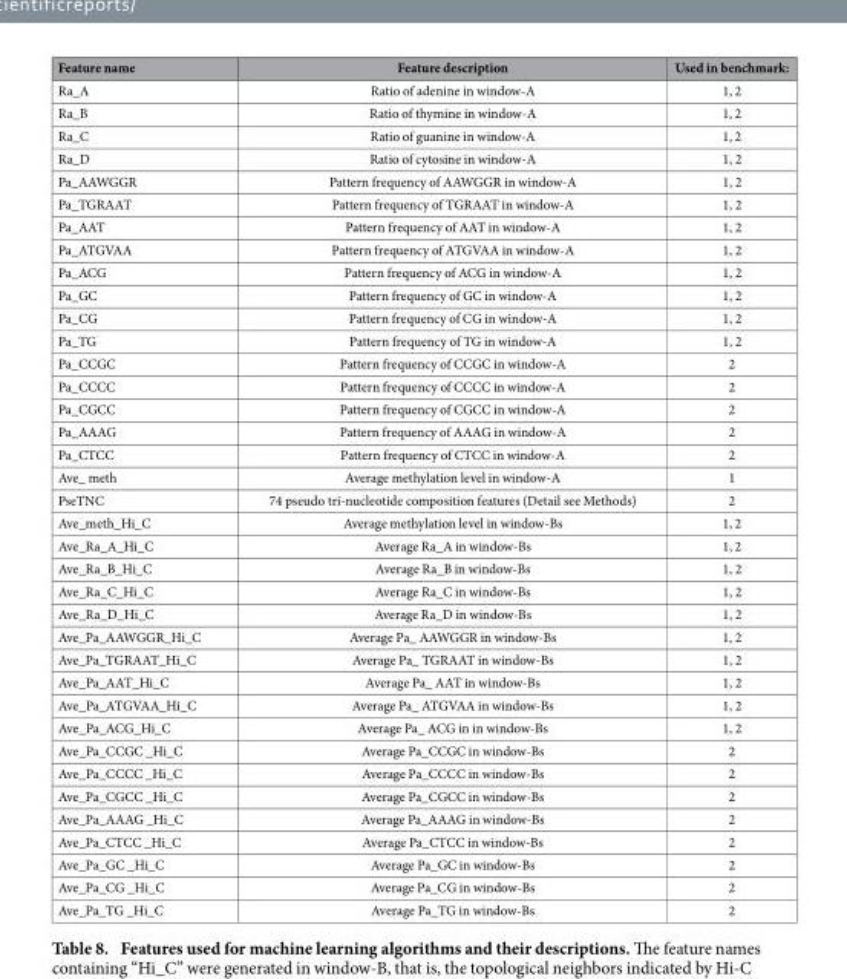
<table><thead><tr><td>Feature name</td><td>Feature description</td><td>Used in benchmark:</td></tr></thead><tbody><tr><td>Ra_A</td><td>Ratio of adenine in window-A</td><td>1, 2</td></tr><tr><td>Ra_B</td><td>Ratio of thymine in window-A</td><td>1, 2</td></tr><tr><td>Ra_C</td><td>Ratio of guanine in window-A</td><td>1, 2</td></tr><tr><td>Ra_D</td><td>Ratio of cytosine in window-A</td><td>1, 2</td></tr><tr><td>Pa_AAWGGR</td><td>Pattern frequency of AAWGGR in window-A</td><td>1, 2</td></tr><tr><td>Pa_TGRAAT</td><td>Pattern frequency of TGRAAT in window-A</td><td>1, 2</td></tr><tr><td>Pa_AAT</td><td>Pattern frequency of AAT in window-A</td><td>1, 2</td></tr><tr><td>Pa_ATGVAA</td><td>Pattern frequency of ATGVAA in window-A</td><td>1, 2</td></tr><tr><td>Pa_ACG</td><td>Pattern frequency of ACG in window-A</td><td>1, 2</td></tr><tr><td>Pa_GC</td><td>Pattern frequency of GC in window-A</td><td>1, 2</td></tr><tr><td>Pa_CG</td><td>Pattern frequency of CG in window-A</td><td>1, 2</td></tr><tr><td>Pa_TG</td><td>Pattern frequency of TG in window-A</td><td>1, 2</td></tr><tr><td>Pa_CCGC</td><td>Pattern frequency of CCGC in window-A</td><td>2</td></tr><tr><td>Pa_CCCC</td><td>Pattern frequency of CCCC in window-A</td><td>2</td></tr><tr><td>Pa_CGCC</td><td>Pattern frequency of CGCC in window-A</td><td>2</td></tr><tr><td>Pa_AAAG</td><td>Pattern frequency of AAAG in window-A</td><td>2</td></tr><tr><td>Pa_CTCC</td><td>Pattern frequency of CTCC in window-A</td><td>2</td></tr><tr><td>Ave_ meth</td><td>Average methylation level in window-A</td><td>1</td></tr><tr><td>PseTNC</td><td>74 pseudo tri-nucleotide composition features (Detail see Methods)</td><td>2</td></tr><tr><td>Ave_meth_Hi_C</td><td>Average methylation level in window-Bs</td><td>1, 2</td></tr><tr><td>Ave_Ra_A_Hi_C</td><td>Average Ra_A in window-Bs</td><td>1, 2</td></tr><tr><td>Ave_Ra_B_Hi_C</td><td>Average Ra_B in window-Bs</td><td>1, 2</td></tr><tr><td>Ave_Ra_C_Hi_C</td><td>Average Ra_C in window-Bs</td><td>1, 2</td></tr><tr><td>Ave_Ra_D_Hi_C</td><td>Average Ra_D in window-Bs</td><td>1, 2</td></tr><tr><td>Ave_Pa_AAWGGR_Hi_C</td><td>Average Pa_ AAWGGR in window-Bs</td><td>1, 2</td></tr><tr><td>Ave_Pa_TGRAAT_Hi_C</td><td>Average Pa_ TGRAAT in window-Bs</td><td>1, 2</td></tr><tr><td>Ave_Pa_AAT_Hi_C</td><td>Average Pa_ AAT in window-Bs</td><td>1, 2</td></tr><tr><td>Ave_Pa_ATGVAA_Hi_C</td><td>Average Pa_ ATGVAA in window-Bs</td><td>1, 2</td></tr><tr><td>Ave_Pa_ACG_Hi_C</td><td>Average Pa_ ACG in in window-Bs</td><td>1, 2</td></tr><tr><td>Ave_Pa_CCGC _Hi_C</td><td>Average Pa_CCGC in window-Bs</td><td>2</td></tr><tr><td>Ave_Pa_CCCC _Hi_C</td><td>Average Pa_CCCC in window-Bs</td><td>2</td></tr><tr><td>Ave_Pa_CGCC _Hi_C</td><td>Average Pa_CGCC in window-Bs</td><td>2</td></tr><tr><td>Ave_Pa_AAAG _Hi_C</td><td>Average Pa_AAAG in window-Bs</td><td>2</td></tr><tr><td>Ave_Pa_CTCC _Hi_C</td><td>Average Pa_CTCC in window-Bs</td><td>2</td></tr><tr><td>Ave_Pa_GC _Hi_C</td><td>Average Pa_GC in window-Bs</td><td>2</td></tr><tr><td>Ave_Pa_CG _Hi_C</td><td>Average Pa_CG in window-Bs</td><td>2</td></tr><tr><td>Ave_Pa_TG _Hi_C</td><td>Average Pa_TG in window-Bs</td><td>2</td></tr></tbody></table>